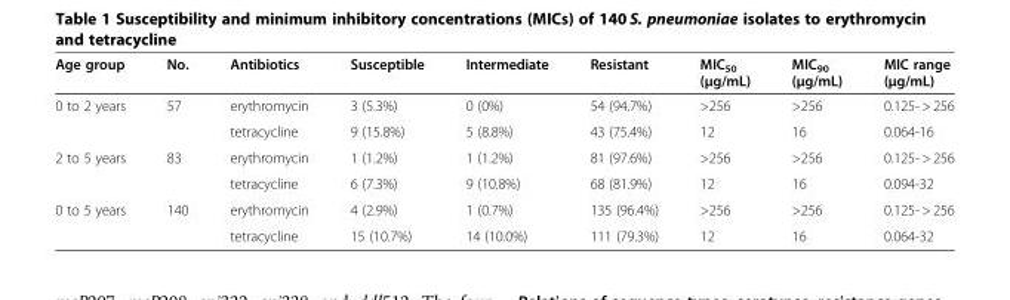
<table><thead><tr><td>Age group</td><td>No.</td><td>Antibiotics</td><td>Susceptible</td><td>Intermediate</td><td>Resistant</td><td>MIC<sub>50</sub> (μg/mL)</td><td>MIC<sub>90</sub> (μg/mL)</td><td>MIC range (μg/mL)</td></tr></thead><tbody><tr><td rowspan="2">0 to 2 years</td><td rowspan="2">57</td><td>erythromycin</td><td>3 (5.3%)</td><td>0 (0%)</td><td>54 (94.7%)</td><td>&gt;256</td><td>&gt;256</td><td>0.125- &gt; 256</td></tr><tr><td>tetracycline</td><td>9 (15.8%)</td><td>5 (8.8%)</td><td>43 (75.4%)</td><td>12</td><td>16</td><td>0.064-16</td></tr><tr><td rowspan="2">2 to 5 years</td><td rowspan="2">83</td><td>erythromycin</td><td>1 (1.2%)</td><td>1 (1.2%)</td><td>81 (97.6%)</td><td>&gt;256</td><td>&gt;256</td><td>0.125- &gt; 256</td></tr><tr><td>tetracycline</td><td>6 (7.3%)</td><td>9 (10.8%)</td><td>68 (81.9%)</td><td>12</td><td>16</td><td>0.094-32</td></tr><tr><td rowspan="2">0 to 5 years</td><td>140</td><td>erythromycin</td><td>4 (2.9%)</td><td>1 (0.7%)</td><td>135 (96.4%)</td><td>&gt;256</td><td>&gt;256</td><td>0.125- &gt; 256</td></tr><tr><td></td><td>tetracycline</td><td>15 (10.7%)</td><td>14 (10.0%)</td><td>111 (79.3%)</td><td>12</td><td>16</td><td>0.064-32</td></tr></tbody></table>